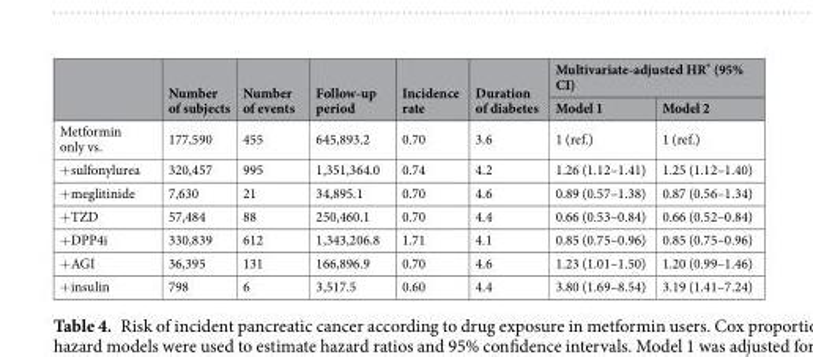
<table><thead><tr><td rowspan="2"></td><td rowspan="2">Number of subjects</td><td rowspan="2">Number of events</td><td rowspan="2">Follow-up period</td><td rowspan="2">Incidence rate</td><td rowspan="2">Duration of diabetes</td><td colspan="2">Multivariate-adjusted HR* (95% CI)</td></tr><tr><td>Model 1</td><td>Model 2</td></tr></thead><tbody><tr><td>Metformin only vs.</td><td>177,590</td><td>455</td><td>645,893.2</td><td>0.70</td><td>3.6</td><td>1 (ref.)</td><td>1 (ref.)</td></tr><tr><td>+sulfonylurea</td><td>320,457</td><td>995</td><td>1,351,364.0</td><td>0.74</td><td>4.2</td><td>1.26 (1.12–1.41)</td><td>1.25 (1.12–1.40)</td></tr><tr><td>+meglitinide</td><td>7,630</td><td>21</td><td>34,895.1</td><td>0.70</td><td>4.6</td><td>0.89 (0.57–1.38)</td><td>0.87 (0.56–1.34)</td></tr><tr><td>+TZD</td><td>57,484</td><td>88</td><td>250,460.1</td><td>0.70</td><td>4.4</td><td>0.66 (0.53–0.84)</td><td>0.66 (0.52–0.84)</td></tr><tr><td>+DPP4i</td><td>330,839</td><td>612</td><td>1,343,206.8</td><td>1.71</td><td>4.1</td><td>0.85 (0.75–0.96)</td><td>0.85 (0.75–0.96)</td></tr><tr><td>+AGI</td><td>36,395</td><td>131</td><td>166,896.9</td><td>0.70</td><td>4.6</td><td>1.23 (1.01–1.50)</td><td>1.20 (0.99–1.46)</td></tr><tr><td>+insulin</td><td>798</td><td>6</td><td>3,517.5</td><td>0.60</td><td>4.4</td><td>3.80 (1.69–8.54)</td><td>3.19 (1.41–7.24)</td></tr></tbody></table>